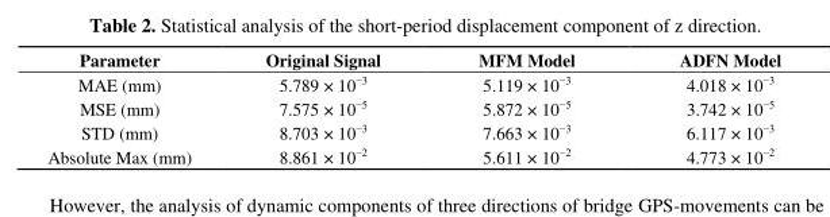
<table><thead><tr><td>Parameter</td><td>Original Signal</td><td>MFM Model</td><td>ADFN Model</td></tr></thead><tbody><tr><td>MAE (mm)</td><td>5.789 × 10<sup>−3</sup></td><td>5.119 × 10<sup>−3</sup></td><td>4.018 × 10<sup>−3</sup></td></tr><tr><td>MSE (mm)</td><td>7.575 × 10<sup>−5</sup></td><td>5.872 × 10<sup>−5</sup></td><td>3.742 × 10<sup>−5</sup></td></tr><tr><td>STD (mm)</td><td>8.703 × 10<sup>−3</sup></td><td>7.663 × 10<sup>−3</sup></td><td>6.117 × 10<sup>−3</sup></td></tr><tr><td>Absolute Max (mm)</td><td>8.861 × 10<sup>−2</sup></td><td>5.611 × 10<sup>−2</sup></td><td>4.773 × 10<sup>−2</sup></td></tr></tbody></table>